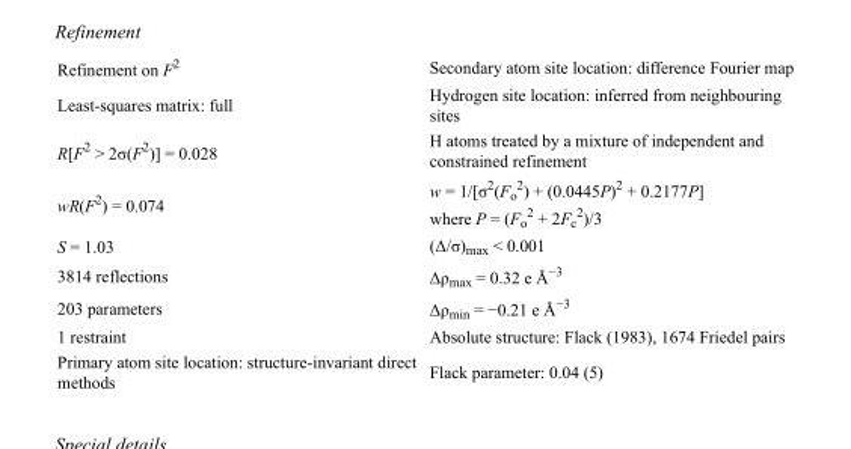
<table><tbody><tr><td>Refinement on F<sup>2</sup></td><td>Secondary atom site location: difference Fourier map</td></tr><tr><td>Least-squares matrix: full</td><td>Hydrogen site location: inferred from neighbouring sites</td></tr><tr><td>R[F<sup>2</sup> &gt; 2σ(F<sup>2</sup>)] = 0.028</td><td>H atoms treated by a mixture of independent and constrained refinement</td></tr><tr><td>wR(F<sup>2</sup>) = 0.074</td><td>w = 1/[σ<sup>2</sup>(F<sub>o</sub> <sup>2</sup>) + (0.0445P)<sup>2</sup> + 0.2177P] where P = (F<sub>o</sub> <sup>2</sup> + 2F<sub>c</sub> <sup>2</sup>)/3</td></tr><tr><td>S = 1.03</td><td>(Δ/σ)<sub>max</sub> &lt; 0.001</td></tr><tr><td>3814 reflections</td><td>Δρ<sub>max</sub> = 0.32 e Å<sup>−3</sup></td></tr><tr><td>203 parameters</td><td>Δρ<sub>min</sub> = −0.21 e Å<sup>−3</sup></td></tr><tr><td>1 restraint</td><td>Absolute structure: Flack (1983), 1674 Friedel pairs</td></tr><tr><td>Primary atom site location: structure-invariant direct methods</td><td>Flack parameter: 0.04 (5)</td></tr></tbody></table>